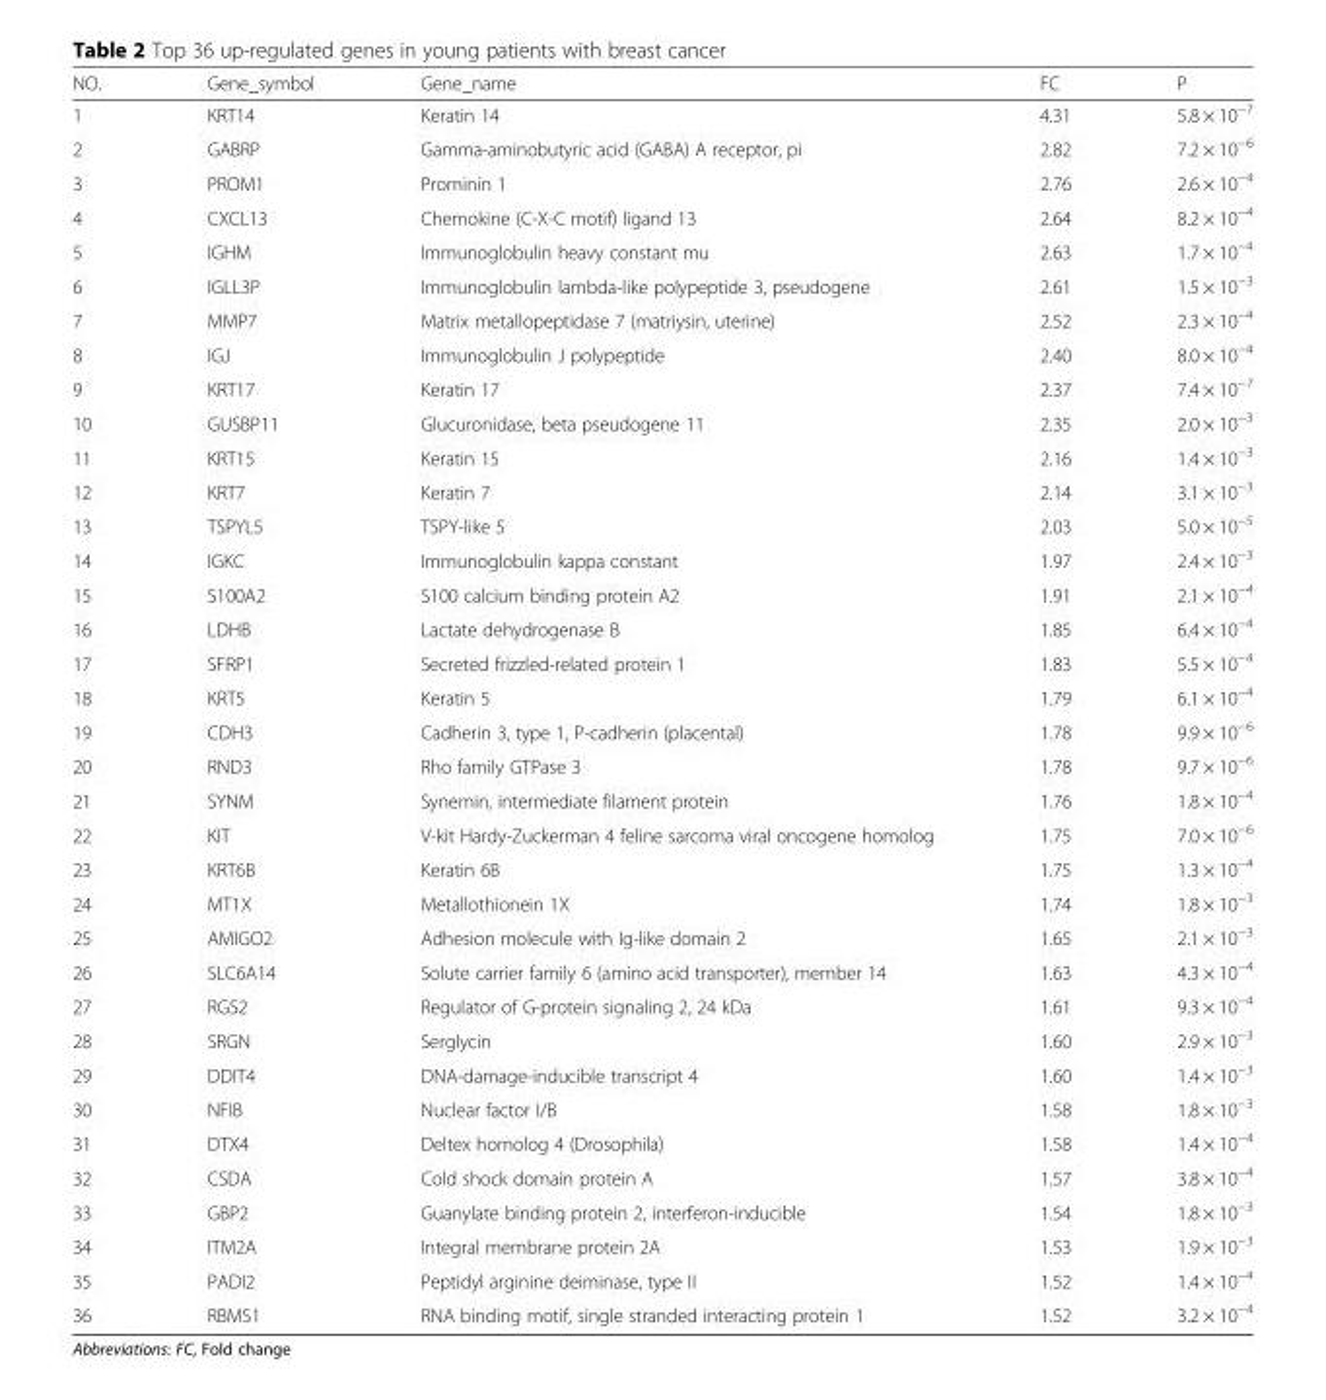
<table><thead><tr><td>NO.</td><td>Gene_symbol</td><td>Gene_name</td><td>FC</td><td>P</td></tr></thead><tbody><tr><td>1</td><td>KRT14</td><td>Keratin 14</td><td>4.31</td><td>5.8 × 10<sup>−7</sup></td></tr><tr><td>2</td><td>GABRP</td><td>Gamma-aminobutyric acid (GABA) A receptor, pi</td><td>2.82</td><td>7.2 × 10<sup>−6</sup></td></tr><tr><td>3</td><td>PROM1</td><td>Prominin 1</td><td>2.76</td><td>2.6 × 10<sup>−4</sup></td></tr><tr><td>4</td><td>CXCL13</td><td>Chemokine (C-X-C motif) ligand 13</td><td>2.64</td><td>8.2 × 10<sup>−4</sup></td></tr><tr><td>5</td><td>IGHM</td><td>Immunoglobulin heavy constant mu</td><td>2.63</td><td>1.7 × 10<sup>−4</sup></td></tr><tr><td>6</td><td>IGLL3P</td><td>Immunoglobulin lambda-like polypeptide 3, pseudogene</td><td>2.61</td><td>1.5 × 10<sup>−3</sup></td></tr><tr><td>7</td><td>MMP7</td><td>Matrix metallopeptidase 7 (matriysin, uterine)</td><td>2.52</td><td>2.3 × 10<sup>−4</sup></td></tr><tr><td>8</td><td>IGJ</td><td>Immunoglobulin J polypeptide</td><td>2.40</td><td>8.0 × 10<sup>−4</sup></td></tr><tr><td>9</td><td>KRT17</td><td>Keratin 17</td><td>2.37</td><td>7.4 × 10<sup>−7</sup></td></tr><tr><td>10</td><td>GUSBP11</td><td>Glucuronidase, beta pseudogene 11</td><td>2.35</td><td>2.0 × 10<sup>−3</sup></td></tr><tr><td>11</td><td>KRT15</td><td>Keratin 15</td><td>2.16</td><td>1.4 × 10<sup>−3</sup></td></tr><tr><td>12</td><td>KRT7</td><td>Keratin 7</td><td>2.14</td><td>3.1 × 10<sup>−3</sup></td></tr><tr><td>13</td><td>TSPYL5</td><td>TSPY-like 5</td><td>2.03</td><td>5.0 × 10<sup>−5</sup></td></tr><tr><td>14</td><td>IGKC</td><td>Immunoglobulin kappa constant</td><td>1.97</td><td>2.4 × 10<sup>−3</sup></td></tr><tr><td>15</td><td>S100A2</td><td>S100 calcium binding protein A2</td><td>1.91</td><td>2.1 × 10<sup>−4</sup></td></tr><tr><td>16</td><td>LDHB</td><td>Lactate dehydrogenase B</td><td>1.85</td><td>6.4 × 10<sup>−4</sup></td></tr><tr><td>17</td><td>SFRP1</td><td>Secreted frizzled-related protein 1</td><td>1.83</td><td>5.5 × 10<sup>−4</sup></td></tr><tr><td>18</td><td>KRT5</td><td>Keratin 5</td><td>1.79</td><td>6.1 × 10<sup>−4</sup></td></tr><tr><td>19</td><td>CDH3</td><td>Cadherin 3, type 1, P-cadherin (placental)</td><td>1.78</td><td>9.9 × 10<sup>−6</sup></td></tr><tr><td>20</td><td>RND3</td><td>Rho family GTPase 3</td><td>1.78</td><td>9.7 × 10<sup>−6</sup></td></tr><tr><td>21</td><td>SYNM</td><td>Synemin, intermediate filament protein</td><td>1.76</td><td>1.8 × 10<sup>−4</sup></td></tr><tr><td>22</td><td>KIT</td><td>V-kit Hardy-Zuckerman 4 feline sarcoma viral oncogene homolog</td><td>1.75</td><td>7.0 × 10<sup>−6</sup></td></tr><tr><td>23</td><td>KRT6B</td><td>Keratin 6B</td><td>1.75</td><td>1.3 × 10<sup>−4</sup></td></tr><tr><td>24</td><td>MT1X</td><td>Metallothionein 1X</td><td>1.74</td><td>1.8 × 10<sup>−3</sup></td></tr><tr><td>25</td><td>AMIGO2</td><td>Adhesion molecule with Ig-like domain 2</td><td>1.65</td><td>2.1 × 10<sup>−3</sup></td></tr><tr><td>26</td><td>SLC6A14</td><td>Solute carrier family 6 (amino acid transporter), member 14</td><td>1.63</td><td>4.3 × 10<sup>−4</sup></td></tr><tr><td>27</td><td>RGS2</td><td>Regulator of G-protein signaling 2, 24 kDa</td><td>1.61</td><td>9.3 × 10<sup>−4</sup></td></tr><tr><td>28</td><td>SRGN</td><td>Serglycin</td><td>1.60</td><td>2.9 × 10<sup>−3</sup></td></tr><tr><td>29</td><td>DDIT4</td><td>DNA-damage-inducible transcript 4</td><td>1.60</td><td>1.4 × 10<sup>−3</sup></td></tr><tr><td>30</td><td>NFIB</td><td>Nuclear factor I/B</td><td>1.58</td><td>1.8 × 10<sup>−3</sup></td></tr><tr><td>31</td><td>DTX4</td><td>Deltex homolog 4 (Drosophila)</td><td>1.58</td><td>1.4 × 10<sup>−4</sup></td></tr><tr><td>32</td><td>CSDA</td><td>Cold shock domain protein A</td><td>1.57</td><td>3.8 × 10<sup>−4</sup></td></tr><tr><td>33</td><td>GBP2</td><td>Guanylate binding protein 2, interferon-inducible</td><td>1.54</td><td>1.8 × 10<sup>−3</sup></td></tr><tr><td>34</td><td>ITM2A</td><td>Integral membrane protein 2A</td><td>1.53</td><td>1.9 × 10<sup>−3</sup></td></tr><tr><td>35</td><td>PADI2</td><td>Peptidyl arginine deiminase, type II</td><td>1.52</td><td>1.4 × 10<sup>−4</sup></td></tr><tr><td>36</td><td>RBMS1</td><td>RNA binding motif, single stranded interacting protein 1</td><td>1.52</td><td>3.2 × 10<sup>−4</sup></td></tr></tbody></table>